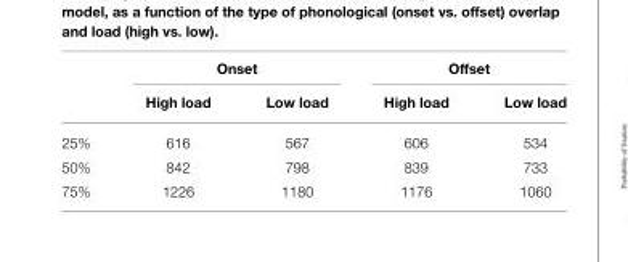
<table><thead><tr><td rowspan="2"></td><td colspan="2">Onset</td><td colspan="2">Offset</td></tr><tr><td>High load</td><td>Low load</td><td>High load</td><td>Low load</td></tr></thead><tbody><tr><td>25%</td><td>616</td><td>567</td><td>606</td><td>534</td></tr><tr><td>50%</td><td>842</td><td>798</td><td>839</td><td>733</td></tr><tr><td>75%</td><td>1226</td><td>1180</td><td>1176</td><td>1060</td></tr></tbody></table>